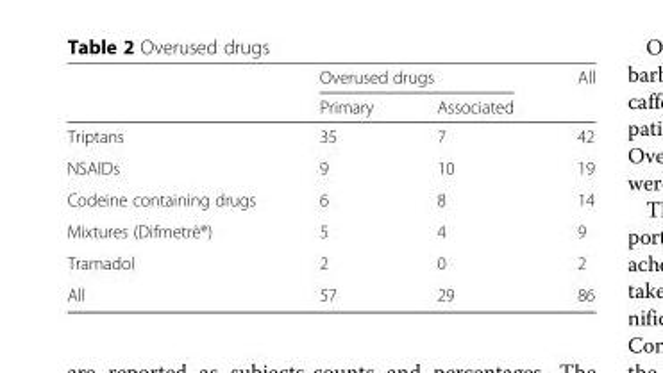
<table><thead><tr><td rowspan="2"></td><td colspan="2">Overused drugs</td><td rowspan="2">All</td></tr><tr><td>Primary</td><td>Associated</td></tr></thead><tbody><tr><td>Triptans</td><td>35</td><td>7</td><td>42</td></tr><tr><td>NSAIDs</td><td>9</td><td>10</td><td>19</td></tr><tr><td>Codeine containing drugs</td><td>6</td><td>8</td><td>14</td></tr><tr><td>Mixtures (Difmetrè®)</td><td>5</td><td>4</td><td>9</td></tr><tr><td>Tramadol</td><td>2</td><td>0</td><td>2</td></tr><tr><td>All</td><td>57</td><td>29</td><td>86</td></tr></tbody></table>